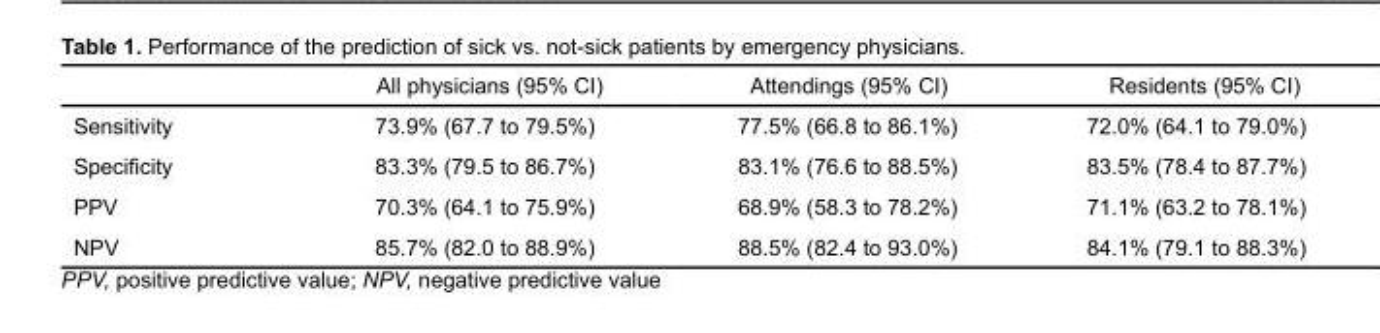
<table><thead><tr><td></td><td>All physicians (95% CI)</td><td>Attendings (95% CI)</td><td>Residents (95% CI)</td></tr></thead><tbody><tr><td>Sensitivity</td><td>73.9% (67.7 to 79.5%)</td><td>77.5% (66.8 to 86.1%)</td><td>72.0% (64.1 to 79.0%)</td></tr><tr><td>Specificity</td><td>83.3% (79.5 to 86.7%)</td><td>83.1% (76.6 to 88.5%)</td><td>83.5% (78.4 to 87.7%)</td></tr><tr><td>PPV</td><td>70.3% (64.1 to 75.9%)</td><td>68.9% (58.3 to 78.2%)</td><td>71.1% (63.2 to 78.1%)</td></tr><tr><td>NPV</td><td>85.7% (82.0 to 88.9%)</td><td>88.5% (82.4 to 93.0%)</td><td>84.1% (79.1 to 88.3%)</td></tr></tbody></table>